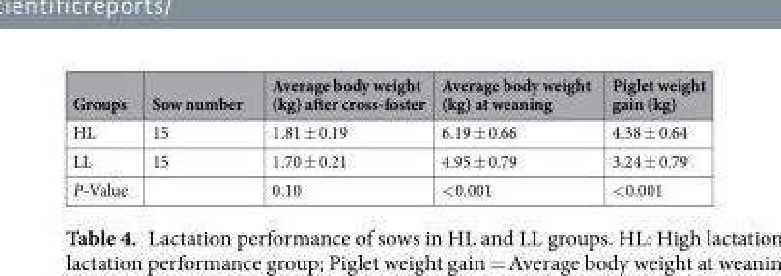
<table><thead><tr><td>Groups</td><td>Sow number</td><td>Average body weight (kg) after cross-foster</td><td>Average body weight (kg) at weaning</td><td>Piglet weight gain (kg)</td></tr></thead><tbody><tr><td>HL</td><td>15</td><td>1.81 ± 0.19</td><td>6.19 ± 0.66</td><td>4.38 ± 0.64</td></tr><tr><td>LL</td><td>15</td><td>1.70 ± 0.21</td><td>4.95 ± 0.79</td><td>3.24 ± 0.79</td></tr><tr><td>P-Value</td><td></td><td>0.10</td><td>&lt;0.001</td><td>&lt;0.001</td></tr></tbody></table>